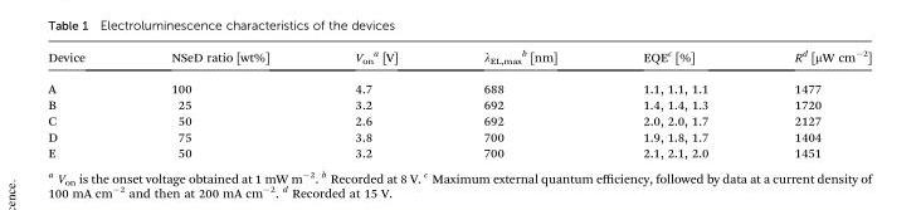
<table><thead><tr><td>Device</td><td>NSeD ratio [wt%]</td><td>V<sub>on</sub> <sup>a</sup> [V]</td><td>λ<sub>EL,max</sub> <sup>b</sup> [nm]</td><td>EQE<sup>c</sup> [%]</td><td>R<sup>d</sup> [μW cm<sup>–2</sup>]</td></tr></thead><tbody><tr><td>A</td><td>100</td><td>4.7</td><td>688</td><td>1.1, 1.1, 1.1</td><td>1477</td></tr><tr><td>B</td><td>25</td><td>3.2</td><td>692</td><td>1.4, 1.4, 1.3</td><td>1720</td></tr><tr><td>C</td><td>50</td><td>2.6</td><td>692</td><td>2.0, 2.0, 1.7</td><td>2127</td></tr><tr><td>D</td><td>75</td><td>3.8</td><td>700</td><td>1.9, 1.8, 1.7</td><td>1404</td></tr><tr><td>E</td><td>50</td><td>3.2</td><td>700</td><td>2.1, 2.1, 2.0</td><td>1451</td></tr></tbody></table>